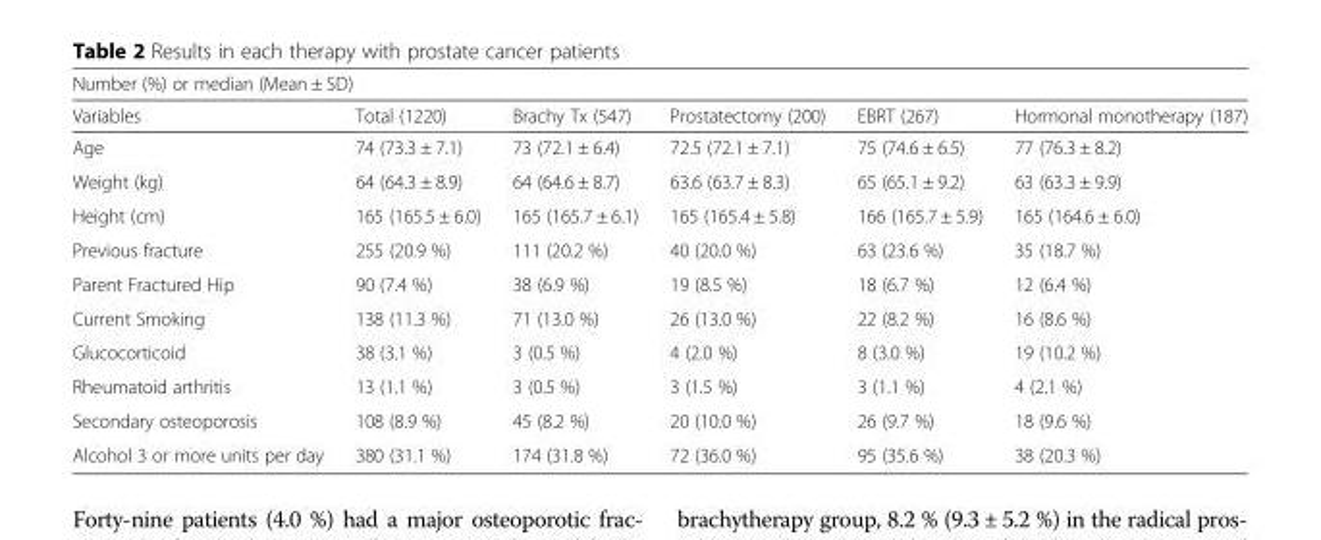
<table><thead><tr><td colspan="6">Number (%) or median (Mean ± SD)</td></tr><tr><td>Variables</td><td>Total (1220)</td><td>Brachy Tx (547)</td><td>Prostatectomy (200)</td><td>EBRT (267)</td><td>Hormonal monotherapy (187)</td></tr></thead><tbody><tr><td>Age</td><td>74 (73.3 ± 7.1)</td><td>73 (72.1 ± 6.4)</td><td>72.5 (72.1 ± 7.1)</td><td>75 (74.6 ± 6.5)</td><td>77 (76.3 ± 8.2)</td></tr><tr><td>Weight (kg)</td><td>64 (64.3 ± 8.9)</td><td>64 (64.6 ± 8.7)</td><td>63.6 (63.7 ± 8.3)</td><td>65 (65.1 ± 9.2)</td><td>63 (63.3 ± 9.9)</td></tr><tr><td>Height (cm)</td><td>165 (165.5 ± 6.0)</td><td>165 (165.7 ± 6.1)</td><td>165 (165.4 ± 5.8)</td><td>166 (165.7 ± 5.9)</td><td>165 (164.6 ± 6.0)</td></tr><tr><td>Previous fracture</td><td>255 (20.9 %)</td><td>111 (20.2 %)</td><td>40 (20.0 %)</td><td>63 (23.6 %)</td><td>35 (18.7 %)</td></tr><tr><td>Parent Fractured Hip</td><td>90 (7.4 %)</td><td>38 (6.9 %)</td><td>19 (8.5 %)</td><td>18 (6.7 %)</td><td>12 (6.4 %)</td></tr><tr><td>Current Smoking</td><td>138 (11.3 %)</td><td>71 (13.0 %)</td><td>26 (13.0 %)</td><td>22 (8.2 %)</td><td>16 (8.6 %)</td></tr><tr><td>Glucocorticoid</td><td>38 (3.1 %)</td><td>3 (0.5 %)</td><td>4 (2.0 %)</td><td>8 (3.0 %)</td><td>19 (10.2 %)</td></tr><tr><td>Rheumatoid arthritis</td><td>13 (1.1 %)</td><td>3 (0.5 %)</td><td>3 (1.5 %)</td><td>3 (1.1 %)</td><td>4 (2.1 %)</td></tr><tr><td>Secondary osteoporosis</td><td>108 (8.9 %)</td><td>45 (8.2 %)</td><td>20 (10.0 %)</td><td>26 (9.7 %)</td><td>18 (9.6 %)</td></tr><tr><td>Alcohol 3 or more units per day</td><td>380 (31.1 %)</td><td>174 (31.8 %)</td><td>72 (36.0 %)</td><td>95 (35.6 %)</td><td>38 (20.3 %)</td></tr></tbody></table>